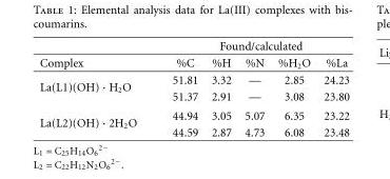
<table><thead><tr><td rowspan="2">Complex</td><td colspan="5">Found/calculated</td></tr><tr><td>%C</td><td>%H</td><td>%N</td><td>%H<sub>2</sub>O</td><td>%La</td></tr></thead><tbody><tr><td rowspan="2">La(L1)(OH) · H<sub>2</sub>O</td><td>51.81</td><td>3.32</td><td>—</td><td>2.85</td><td>24.23</td></tr><tr><td>51.37</td><td>2.91</td><td>—</td><td>3.08</td><td>23.80</td></tr><tr><td rowspan="2">La(L2)(OH) · 2H<sub>2</sub>O</td><td>44.94</td><td>3.05</td><td>5.07</td><td>6.35</td><td>23.22</td></tr><tr><td>44.59</td><td>2.87</td><td>4.73</td><td>6.08</td><td>23.48</td></tr></tbody></table>